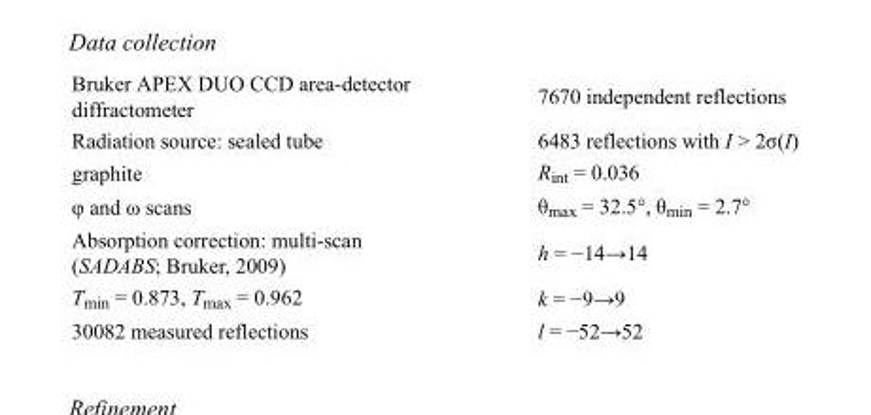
<table><tbody><tr><td>Bruker APEX DUO CCD area-detector diffractometer</td><td>7670 independent reflections</td></tr><tr><td>Radiation source: sealed tube</td><td>6483 reflections with I &gt; 2σ(I)</td></tr><tr><td>graphite</td><td>R<sub>int</sub> = 0.036</td></tr><tr><td>φ and ω scans</td><td>θ<sub>max</sub> = 32.5°, θ<sub>min</sub> = 2.7°</td></tr><tr><td>Absorption correction: multi-scan (SADABS; Bruker, 2009)</td><td>h = −14→14</td></tr><tr><td>T<sub>min</sub> = 0.873, T<sub>max</sub> = 0.962</td><td>k = −9→9</td></tr><tr><td>30082 measured reflections</td><td>l = −52→52</td></tr></tbody></table>